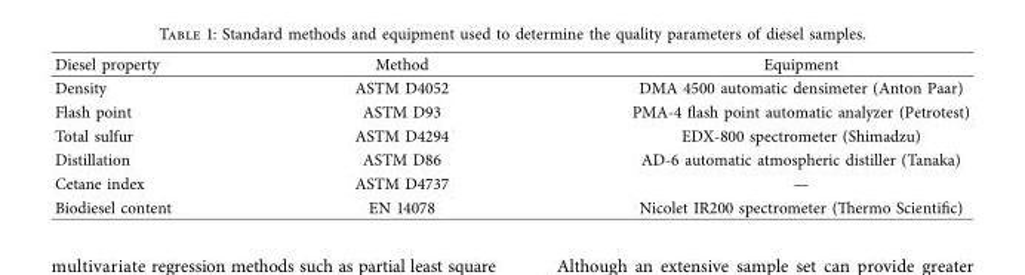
<table><thead><tr><td>Diesel property</td><td>Method</td><td>Equipment</td></tr></thead><tbody><tr><td>Density</td><td>ASTM D4052</td><td>DMA 4500 automatic densimeter (Anton Paar)</td></tr><tr><td>Flash point</td><td>ASTM D93</td><td>PMA-4 fash point automatic analyzer (Petrotest)</td></tr><tr><td>Total sulfur</td><td>ASTM D4294</td><td>EDX-800 spectrometer (Shimadzu)</td></tr><tr><td>Distillation</td><td>ASTM D86</td><td>AD-6 automatic atmospheric distiller (Tanaka)</td></tr><tr><td>Cetane index</td><td>ASTM D4737</td><td>—</td></tr><tr><td>Biodiesel content</td><td>EN 14078</td><td>Nicolet IR200 spectrometer (Termo Scientifc)</td></tr></tbody></table>